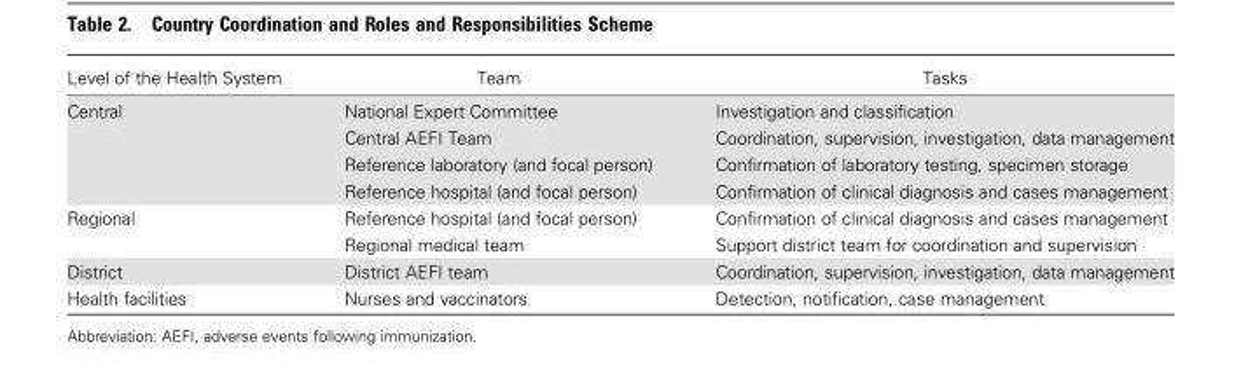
<table><thead><tr><td>Level of the Health System</td><td>Team</td><td>Tasks</td></tr></thead><tbody><tr><td rowspan="4">Central</td><td>National Expert Committee</td><td>Investigation and classification</td></tr><tr><td>Central AEFI Team</td><td>Coordination, supervision, investigation, data management</td></tr><tr><td>Reference laboratory (and focal person)</td><td>Confirmation of laboratory testing, specimen storage</td></tr><tr><td>Reference hospital (and focal person)</td><td>Confirmation of clinical diagnosis and cases management</td></tr><tr><td rowspan="2">Regional</td><td>Reference hospital (and focal person)</td><td>Confirmation of clinical diagnosis and cases management</td></tr><tr><td>Regional medical team</td><td>Support district team for coordination and supervision</td></tr><tr><td>District</td><td>District AEFI team</td><td>Coordination, supervision, investigation, data management</td></tr><tr><td>Health facilities</td><td>Nurses and vaccinators</td><td>Detection, notification, case management</td></tr></tbody></table>